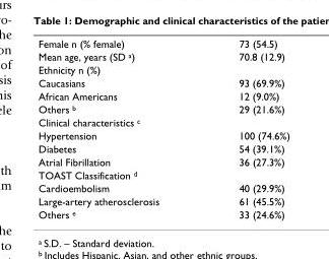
<table><tbody><tr><td>Female n (% female)</td><td>73 (54.5)</td></tr><tr><td>Mean age, years (SD <sup>a</sup>)</td><td>70.8 (12.9)</td></tr><tr><td colspan="2">Ethnicity n (%)</td></tr><tr><td>Caucasians</td><td>93 (69.9%)</td></tr><tr><td>African Americans</td><td>12 (9.0%)</td></tr><tr><td>Others <sup>b</sup></td><td>29 (21.6%)</td></tr><tr><td colspan="2">Clinical characteristics <sup>c</sup></td></tr><tr><td>Hypertension</td><td>100 (74.6%)</td></tr><tr><td>Diabetes</td><td>54 (39.1%)</td></tr><tr><td>Atrial Fibrillation</td><td>36 (27.3%)</td></tr><tr><td colspan="2">TOAST Classification <sup>d</sup></td></tr><tr><td>Cardioembolism</td><td>40 (29.9%)</td></tr><tr><td>Large-artery atherosclerosis</td><td>61 (45.5%)</td></tr><tr><td>Others <sup>e</sup></td><td>33 (24.6%)</td></tr></tbody></table>